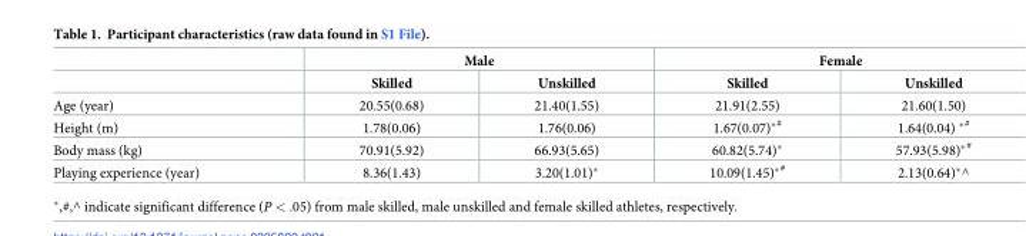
<table><thead><tr><td rowspan="2"></td><td colspan="2">Male</td><td colspan="2">Female</td></tr><tr><td>Skilled</td><td>Unskilled</td><td>Skilled</td><td>Unskilled</td></tr></thead><tbody><tr><td>Age (year)</td><td>20.55(0.68)</td><td>21.40(1.55)</td><td>21.91(2.55)</td><td>21.60(1.50)</td></tr><tr><td>Height (m)</td><td>1.78(0.06)</td><td>1.76(0.06)</td><td>1.67(0.07)*<sup>#</sup></td><td>1.64(0.04) *<sup>#</sup></td></tr><tr><td>Body mass (kg)</td><td>70.91(5.92)</td><td>66.93(5.65)</td><td>60.82(5.74)*</td><td>57.93(5.98)*<sup>#</sup></td></tr><tr><td>Playing experience (year)</td><td>8.36(1.43)</td><td>3.20(1.01)*</td><td>10.09(1.45)*<sup>#</sup></td><td>2.13(0.64)*^</td></tr></tbody></table>